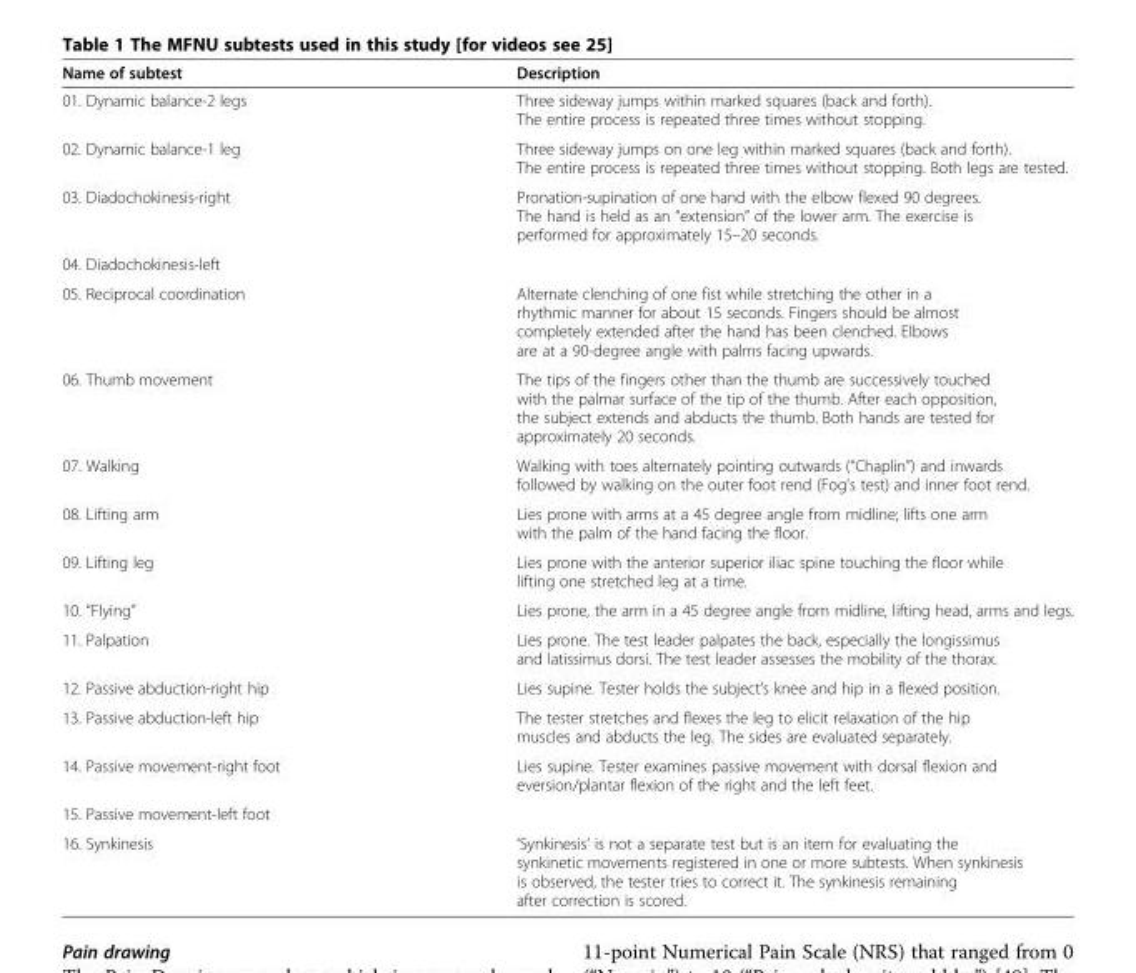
<table><thead><tr><td>Name of subtest</td><td>Description</td></tr></thead><tbody><tr><td>01. Dynamic balance-2 legs</td><td>Three sideway jumps within marked squares (back and forth). The entire process is repeated three times without stopping.</td></tr><tr><td>02. Dynamic balance-1 leg</td><td>Three sideway jumps on one leg within marked squares (back and forth). The entire process is repeated three times without stopping. Both legs are tested.</td></tr><tr><td>03. Diadochokinesis-right</td><td>Pronation-supination of one hand with the elbow flexed 90 degrees. The hand is held as an “extension” of the lower arm. The exercise is performed for approximately 15–20 seconds.</td></tr><tr><td colspan="2">04. Diadochokinesis-left</td></tr><tr><td>05. Reciprocal coordination</td><td>Alternate clenching of one fist while stretching the other in a rhythmic manner for about 15 seconds. Fingers should be almost completely extended after the hand has been clenched. Elbows are at a 90-degree angle with palms facing upwards.</td></tr><tr><td>06. Thumb movement</td><td>The tips of the fingers other than the thumb are successively touched with the palmar surface of the tip of the thumb. After each opposition, the subject extends and abducts the thumb. Both hands are tested for approximately 20 seconds.</td></tr><tr><td>07. Walking</td><td>Walking with toes alternately pointing outwards (“Chaplin”) and inwards followed by walking on the outer foot rend (Fog’s test) and inner foot rend.</td></tr><tr><td>08. Lifting arm</td><td>Lies prone with arms at a 45 degree angle from midline; lifts one arm with the palm of the hand facing the floor.</td></tr><tr><td>09. Lifting leg</td><td>Lies prone with the anterior superior iliac spine touching the floor while lifting one stretched leg at a time.</td></tr><tr><td>10. “Flying”</td><td>Lies prone, the arm in a 45 degree angle from midline, lifting head, arms and legs.</td></tr><tr><td>11. Palpation</td><td>Lies prone. The test leader palpates the back, especially the longissimus and latissimus dorsi. The test leader assesses the mobility of the thorax.</td></tr><tr><td>12. Passive abduction-right hip</td><td>Lies supine. Tester holds the subject’s knee and hip in a flexed position.</td></tr><tr><td>13. Passive abduction-left hip</td><td>The tester stretches and flexes the leg to elicit relaxation of the hip muscles and abducts the leg. The sides are evaluated separately.</td></tr><tr><td>14. Passive movement-right foot</td><td>Lies supine. Tester examines passive movement with dorsal flexion and eversion/plantar flexion of the right and the left feet.</td></tr><tr><td colspan="2">15. Passive movement-left foot</td></tr><tr><td>16. Synkinesis</td><td>‘Synkinesis’ is not a separate test but is an item for evaluating the synkinetic movements registered in one or more subtests. When synkinesis is observed, the tester tries to correct it. The synkinesis remaining after correction is scored.</td></tr></tbody></table>